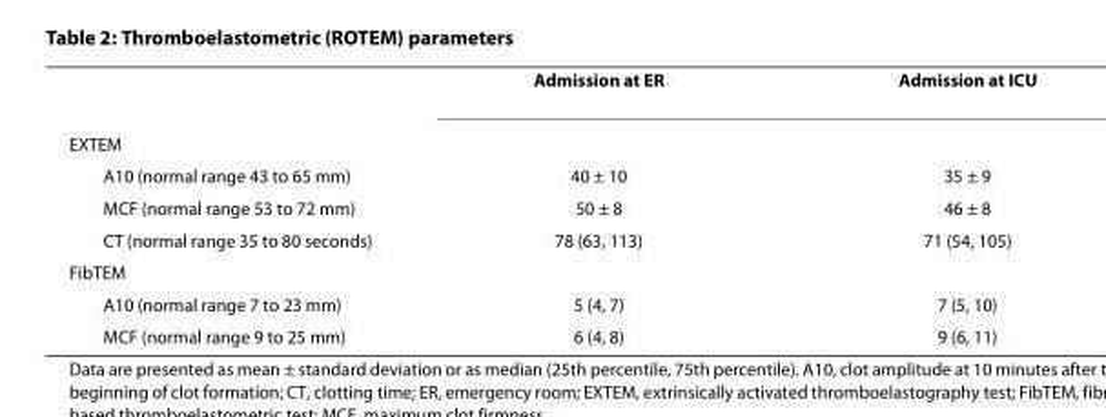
<table><thead><tr><td></td><td>Admission at ER</td><td>Admission at ICU</td></tr></thead><tbody><tr><td colspan="3">EXTEM</td></tr><tr><td>A10 (normal range 43 to 65 mm)</td><td>40 ± 10</td><td>35 ± 9</td></tr><tr><td>MCF (normal range 53 to 72 mm)</td><td>50 ± 8</td><td>46 ± 8</td></tr><tr><td>CT (normal range 35 to 80 seconds)</td><td>78 (63, 113)</td><td>71 (54, 105)</td></tr><tr><td colspan="3">FibTEM</td></tr><tr><td>A10 (normal range 7 to 23 mm)</td><td>5 (4, 7)</td><td>7 (5, 10)</td></tr><tr><td>MCF (normal range 9 to 25 mm)</td><td>6 (4, 8)</td><td>9 (6, 11)</td></tr></tbody></table>